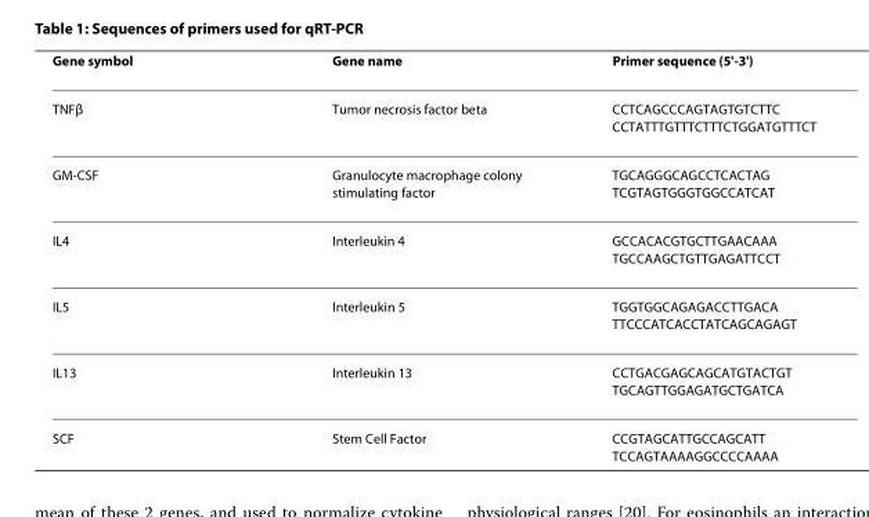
<table><thead><tr><td>Gene symbol</td><td>Gene name</td><td>Primer sequence (5&#x27;-3&#x27;)</td></tr></thead><tbody><tr><td>TNFβ</td><td>Tumor necrosis factor beta</td><td>CCTCAGCCCAGTAGTGTCTTC CCTATTTGTTTCTTTCTGGATGTTTCT</td></tr><tr><td>GM-CSF</td><td>Granulocyte macrophage colony stimulating factor</td><td>TGCAGGGCAGCCTCACTAG TCGTAGTGGGTGGCCATCAT</td></tr><tr><td>IL4</td><td>Interleukin 4</td><td>GCCACACGTGCTTGAACAAA TGCCAAGCTGTTGAGATTCCT</td></tr><tr><td>IL5</td><td>Interleukin 5</td><td>TGGTGGCAGAGACCTTGACA TTCCCATCACCTATCAGCAGAGT</td></tr><tr><td>IL13</td><td>Interleukin 13</td><td>CCTGACGAGCAGCATGTACTGT TGCAGTTGGAGATGCTGATCA</td></tr><tr><td>SCF</td><td>Stem Cell Factor</td><td>CCGTAGCATTGCCAGCATT TCCAGTAAAAGGCCCCAAAA</td></tr></tbody></table>